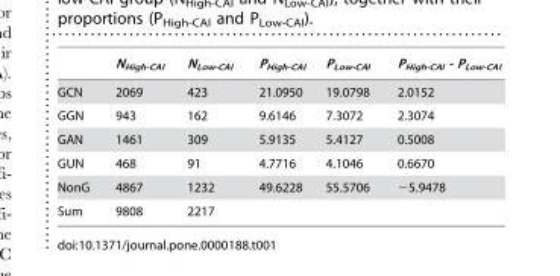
<table><thead><tr><td></td><td>N<sub>High-CAI</sub></td><td>N<sub>Low-CAI</sub></td><td>P<sub>High-CAI</sub></td><td>P<sub>Low-CAI</sub></td><td>P<sub>High-CAI</sub> - P<sub>Low-CAI</sub></td></tr></thead><tbody><tr><td>GCN</td><td>2069</td><td>423</td><td>21.0950</td><td>19.0798</td><td>2.0152</td></tr><tr><td>GGN</td><td>943</td><td>162</td><td>9.6146</td><td>7.3072</td><td>2.3074</td></tr><tr><td>GAN</td><td>1461</td><td>309</td><td>5.9135</td><td>5.4127</td><td>0.5008</td></tr><tr><td>GUN</td><td>468</td><td>91</td><td>4.7716</td><td>4.1046</td><td>0.6670</td></tr><tr><td>NonG</td><td>4867</td><td>1232</td><td>49.6228</td><td>55.5706</td><td>−5.9478</td></tr><tr><td>Sum</td><td>9808</td><td>2217</td><td></td><td></td><td></td></tr></tbody></table>